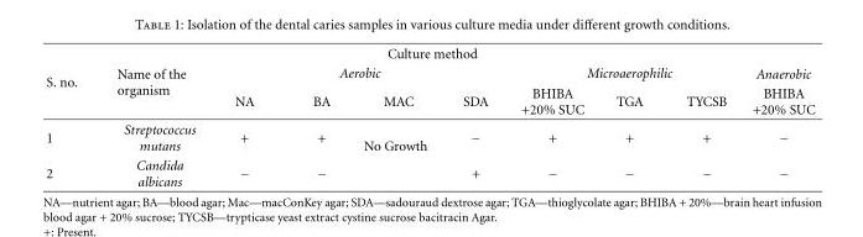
<table><thead><tr><td colspan="10">Culture method</td></tr><tr><td rowspan="2">S. no.</td><td rowspan="2">Name of the organism</td><td colspan="4">Aerobic</td><td colspan="3">Microaerophilic</td><td rowspan="2">Anaerobic BHIBA +20% SUC</td></tr><tr><td>NA</td><td>BA</td><td>MAC</td><td>SDA</td><td>BHIBA +20% SUC</td><td>TGA</td><td>TYCSB</td></tr></thead><tbody><tr><td>1</td><td>Streptococcus mutans</td><td>+</td><td>+</td><td rowspan="2">No Growth</td><td>−</td><td>+</td><td>+</td><td>+</td><td>−</td></tr><tr><td>2</td><td>Candida albicans</td><td>−</td><td>−</td><td>+</td><td>−</td><td>−</td><td>−</td><td>−</td></tr></tbody></table>